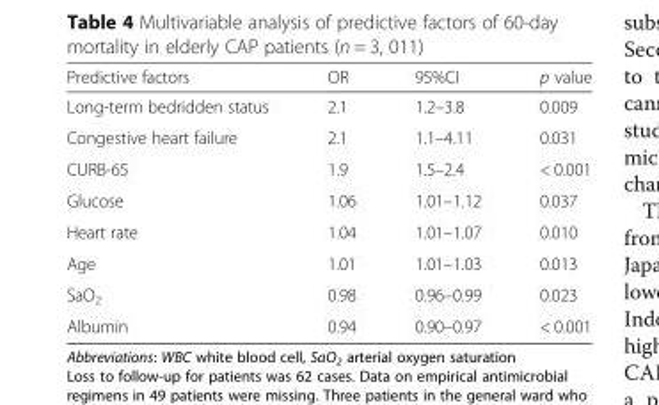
<table><thead><tr><td>Predictive factors</td><td>OR</td><td>95%CI</td><td>p value</td></tr></thead><tbody><tr><td>Long-term bedridden status</td><td>2.1</td><td>1.2–3.8</td><td>0.009</td></tr><tr><td>Congestive heart failure</td><td>2.1</td><td>1.1–4.11</td><td>0.031</td></tr><tr><td>CURB-65</td><td>1.9</td><td>1.5–2.4</td><td>&lt; 0.001</td></tr><tr><td>Glucose</td><td>1.06</td><td>1.01–1.12</td><td>0.037</td></tr><tr><td>Heart rate</td><td>1.04</td><td>1.01–1.07</td><td>0.010</td></tr><tr><td>Age</td><td>1.01</td><td>1.01–1.03</td><td>0.013</td></tr><tr><td>SaO<sub>2</sub></td><td>0.98</td><td>0.96–0.99</td><td>0.023</td></tr><tr><td>Albumin</td><td>0.94</td><td>0.90–0.97</td><td>&lt; 0.001</td></tr></tbody></table>